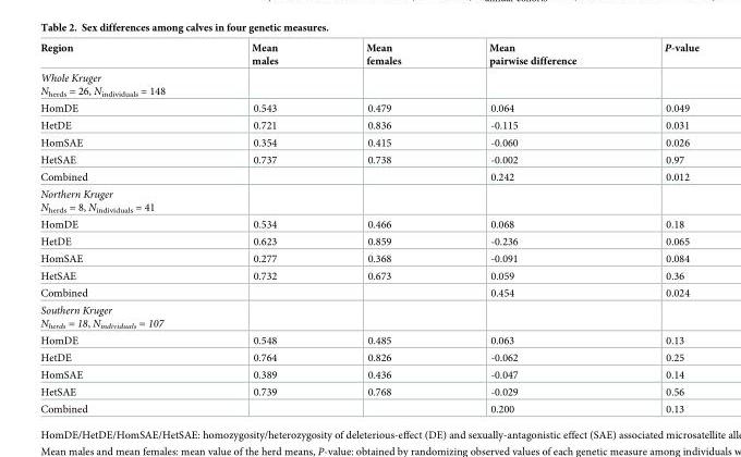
<table><thead><tr><td>Region</td><td>Mean males</td><td>Mean females</td><td>Mean pairwise difference</td><td>P-value</td></tr></thead><tbody><tr><td colspan="5">Whole Kruger N<sub>herds</sub> = 26, N<sub>individuals</sub> = 148</td></tr><tr><td>HomDE</td><td>0.543</td><td>0.479</td><td>0.064</td><td>0.049</td></tr><tr><td>HetDE</td><td>0.721</td><td>0.836</td><td>-0.115</td><td>0.031</td></tr><tr><td>HomSAE</td><td>0.354</td><td>0.415</td><td>-0.060</td><td>0.026</td></tr><tr><td>HetSAE</td><td>0.737</td><td>0.738</td><td>-0.002</td><td>0.97</td></tr><tr><td>Combined</td><td></td><td></td><td>0.242</td><td>0.012</td></tr><tr><td colspan="5">Northern Kruger N<sub>herds</sub> = 8, N<sub>individuals</sub> = 41</td></tr><tr><td>HomDE</td><td>0.534</td><td>0.466</td><td>0.068</td><td>0.18</td></tr><tr><td>HetDE</td><td>0.623</td><td>0.859</td><td>-0.236</td><td>0.065</td></tr><tr><td>HomSAE</td><td>0.277</td><td>0.368</td><td>-0.091</td><td>0.084</td></tr><tr><td>HetSAE</td><td>0.732</td><td>0.673</td><td>0.059</td><td>0.36</td></tr><tr><td>Combined</td><td></td><td></td><td>0.454</td><td>0.024</td></tr><tr><td colspan="5">Southern Kruger N<sub>herds</sub> = 18, N<sub>individuals</sub> = 107</td></tr><tr><td>HomDE</td><td>0.548</td><td>0.485</td><td>0.063</td><td>0.13</td></tr><tr><td>HetDE</td><td>0.764</td><td>0.826</td><td>-0.062</td><td>0.25</td></tr><tr><td>HomSAE</td><td>0.389</td><td>0.436</td><td>-0.047</td><td>0.14</td></tr><tr><td>HetSAE</td><td>0.739</td><td>0.768</td><td>-0.029</td><td>0.56</td></tr><tr><td>Combined</td><td></td><td></td><td>0.200</td><td>0.13</td></tr></tbody></table>